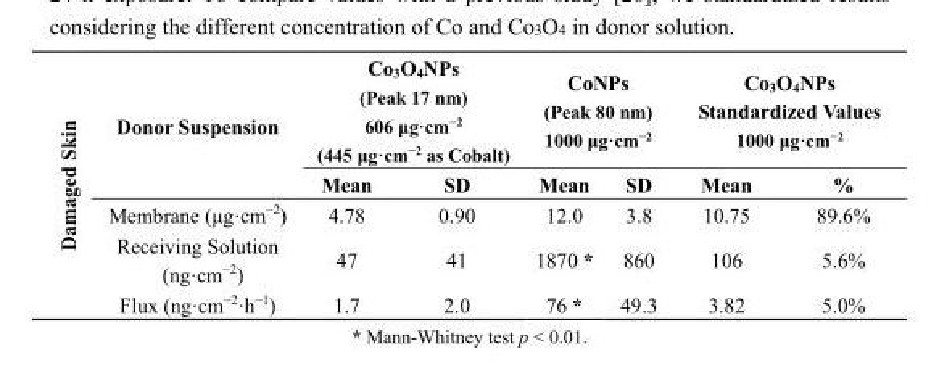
<table><tbody><tr><td rowspan="5">Damaged Skin</td><td rowspan="2">Donor Suspension</td><td colspan="2">Co<sub>3</sub>O<sub>4</sub>NPs (Peak 17 nm) 606 μg·cm<sup>−2</sup> (445 μg·cm<sup>−2</sup> as Cobalt)</td><td colspan="2">CoNPs (Peak 80 nm) 1000 μg·cm<sup>−2</sup></td><td colspan="2">Co<sub>3</sub>O<sub>4</sub>NPs Standardized Values 1000 μg·cm<sup>−2</sup></td></tr><tr><td>Mean</td><td>SD</td><td>Mean</td><td>SD</td><td>Mean</td><td>%</td></tr><tr><td>Membrane (μg·cm<sup>−2</sup>)</td><td>4.78</td><td>0.90</td><td>12.0</td><td>3.8</td><td>10.75</td><td>89.6%</td></tr><tr><td>Receiving Solution (ng·cm<sup>−2</sup>)</td><td>47</td><td>41</td><td>1870 *</td><td>860</td><td>106</td><td>5.6%</td></tr><tr><td>Flux (ng·cm<sup>−2</sup>·h<sup>−1</sup>)</td><td>1.7</td><td>2.0</td><td>76 *</td><td>49.3</td><td>3.82</td><td>5.0%</td></tr></tbody></table>